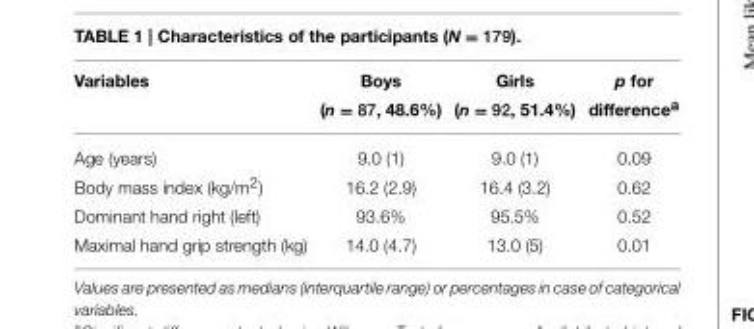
<table><thead><tr><td>Variables</td><td>Boys (n = 87, 48.6%)</td><td>Girls (n = 92, 51.4%)</td><td>p for difference<sup>a</sup></td></tr></thead><tbody><tr><td>Age (years)</td><td>9.0 (1)</td><td>9.0 (1)</td><td>0.09</td></tr><tr><td>Body mass index (kg/m<sup>2</sup>)</td><td>16.2 (2.9)</td><td>16.4 (3.2)</td><td>0.62</td></tr><tr><td>Dominant hand right (left)</td><td>93.6%</td><td>95.5%</td><td>0.52</td></tr><tr><td>Maximal hand grip strength (kg)</td><td>14.0 (4.7)</td><td>13.0 (5)</td><td>0.01</td></tr></tbody></table>